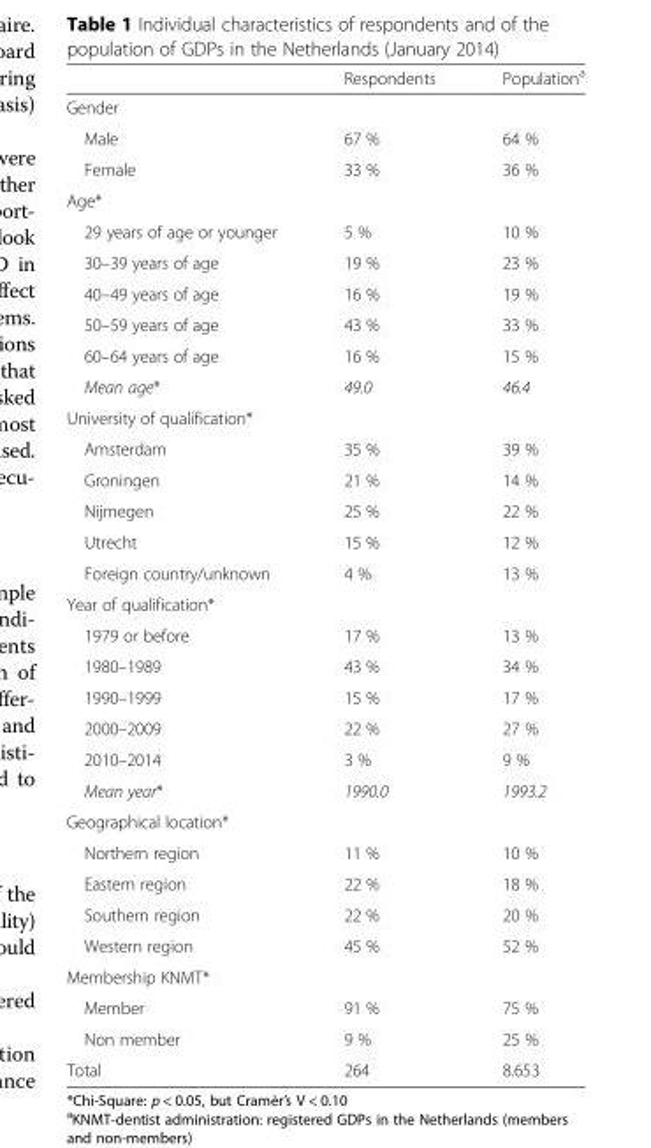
<table><thead><tr><td></td><td>Respondents</td><td>Population<sup>a</sup></td></tr></thead><tbody><tr><td colspan="3">Gender</td></tr><tr><td>Male</td><td>67 %</td><td>64 %</td></tr><tr><td>Female</td><td>33 %</td><td>36 %</td></tr><tr><td colspan="3">Age*</td></tr><tr><td>29 years of age or younger</td><td>5 %</td><td>10 %</td></tr><tr><td>30–39 years of age</td><td>19 %</td><td>23 %</td></tr><tr><td>40–49 years of age</td><td>16 %</td><td>19 %</td></tr><tr><td>50–59 years of age</td><td>43 %</td><td>33 %</td></tr><tr><td>60–64 years of age</td><td>16 %</td><td>15 %</td></tr><tr><td>Mean age*</td><td>49.0</td><td>46.4</td></tr><tr><td colspan="3">University of qualification*</td></tr><tr><td>Amsterdam</td><td>35 %</td><td>39 %</td></tr><tr><td>Groningen</td><td>21 %</td><td>14 %</td></tr><tr><td>Nijmegen</td><td>25 %</td><td>22 %</td></tr><tr><td>Utrecht</td><td>15 %</td><td>12 %</td></tr><tr><td>Foreign country/unknown</td><td>4 %</td><td>13 %</td></tr><tr><td colspan="3">Year of qualification*</td></tr><tr><td>1979 or before</td><td>17 %</td><td>13 %</td></tr><tr><td>1980–1989</td><td>43 %</td><td>34 %</td></tr><tr><td>1990–1999</td><td>15 %</td><td>17 %</td></tr><tr><td>2000–2009</td><td>22 %</td><td>27 %</td></tr><tr><td>2010–2014</td><td>3 %</td><td>9 %</td></tr><tr><td>Mean year*</td><td>1990.0</td><td>1993.2</td></tr><tr><td colspan="3">Geographical location*</td></tr><tr><td>Northern region</td><td>11 %</td><td>10 %</td></tr><tr><td>Eastern region</td><td>22 %</td><td>18 %</td></tr><tr><td>Southern region</td><td>22 %</td><td>20 %</td></tr><tr><td>Western region</td><td>45 %</td><td>52 %</td></tr><tr><td colspan="3">Membership KNMT*</td></tr><tr><td>Member</td><td>91 %</td><td>75 %</td></tr><tr><td>Non member</td><td>9 %</td><td>25 %</td></tr><tr><td>Total</td><td>264</td><td>8.653</td></tr></tbody></table>